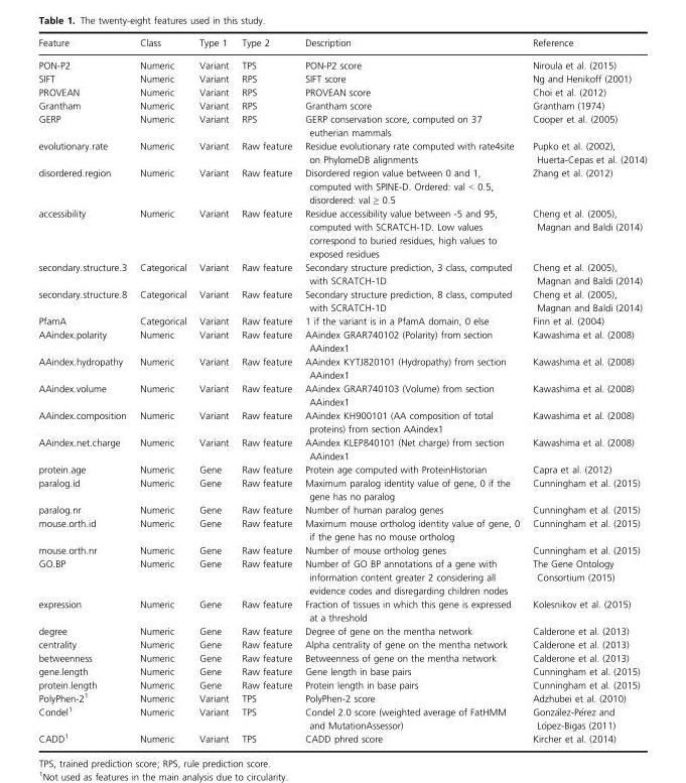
<table><thead><tr><td>Feature</td><td>Class</td><td>Type 1</td><td>Type 2</td><td>Description</td><td>Reference</td></tr></thead><tbody><tr><td>PON-P2</td><td>Numeric</td><td>Variant</td><td>TPS</td><td>PON-P2 score</td><td>Niroula et al. (2015)</td></tr><tr><td>SIFT</td><td>Numeric</td><td>Variant</td><td>RPS</td><td>SIFT score</td><td>Ng and Henikoff (2001)</td></tr><tr><td>PROVEAN</td><td>Numeric</td><td>Variant</td><td>RPS</td><td>PROVEAN score</td><td>Choi et al. (2012)</td></tr><tr><td>Grantham</td><td>Numeric</td><td>Variant</td><td>RPS</td><td>Grantham score</td><td>Grantham (1974)</td></tr><tr><td>GERP</td><td>Numeric</td><td>Variant</td><td>RPS</td><td>GERP conservation score, computed on 37 eutherian mammals</td><td>Cooper et al. (2005)</td></tr><tr><td>evolutionary.rate</td><td>Numeric</td><td>Variant</td><td>Raw feature</td><td>Residue evolutionary rate computed with rate4site on PhylomeDB alignments</td><td>Pupko et al. (2002), Huerta-Cepas et al. (2014)</td></tr><tr><td>disordered.region</td><td>Numeric</td><td>Variant</td><td>Raw feature</td><td>Disordered region value between 0 and 1, computed with SPINE-D. Ordered: val &lt; 0.5, disordered: val ≥ 0.5</td><td>Zhang et al. (2012)</td></tr><tr><td>accessibility</td><td>Numeric</td><td>Variant</td><td>Raw feature</td><td>Residue accessibility value between -5 and 95, computed with SCRATCH-1D. Low values correspond to buried residues, high values to exposed residues</td><td>Cheng et al. (2005), Magnan and Baldi (2014)</td></tr><tr><td>secondary.structure.3</td><td>Categorical</td><td>Variant</td><td>Raw feature</td><td>Secondary structure prediction, 3 class, computed with SCRATCH-1D</td><td>Cheng et al. (2005), Magnan and Baldi (2014)</td></tr><tr><td>secondary.structure.8</td><td>Categorical</td><td>Variant</td><td>Raw feature</td><td>Secondary structure prediction, 8 class, computed with SCRATCH-1D</td><td>Cheng et al. (2005), Magnan and Baldi (2014)</td></tr><tr><td>PfamA</td><td>Categorical</td><td>Variant</td><td>Raw feature</td><td>1 if the variant is in a PfamA domain, 0 else</td><td>Finn et al. (2004)</td></tr><tr><td>AAindex.polarity</td><td>Numeric</td><td>Variant</td><td>Raw feature</td><td>AAindex GRAR740102 (Polarity) from section AAindex1</td><td>Kawashima et al. (2008)</td></tr><tr><td>AAindex.hydropathy</td><td>Numeric</td><td>Variant</td><td>Raw feature</td><td>AAindex KYTJ820101 (Hydropathy) from section AAindex1</td><td>Kawashima et al. (2008)</td></tr><tr><td>AAindex.volume</td><td>Numeric</td><td>Variant</td><td>Raw feature</td><td>AAindex GRAR740103 (Volume) from section AAindex1</td><td>Kawashima et al. (2008)</td></tr><tr><td>AAindex.composition</td><td>Numeric</td><td>Variant</td><td>Raw feature</td><td>AAindex KH900101 (AA composition of total proteins) from section AAindex1</td><td>Kawashima et al. (2008)</td></tr><tr><td>AAindex.net.charge</td><td>Numeric</td><td>Variant</td><td>Raw feature</td><td>AAindex KLEP840101 (Net charge) from section AAindex1</td><td>Kawashima et al. (2008)</td></tr><tr><td>protein.age</td><td>Numeric</td><td>Gene</td><td>Raw feature</td><td>Protein age computed with ProteinHistorian</td><td>Capra et al. (2012)</td></tr><tr><td>paralog.id</td><td>Numeric</td><td>Gene</td><td>Raw feature</td><td>Maximum paralog identity value of gene, 0 if the gene has no paralog</td><td>Cunningham et al. (2015)</td></tr><tr><td>paralog.nr</td><td>Numeric</td><td>Gene</td><td>Raw feature</td><td>Number of human paralog genes</td><td>Cunningham et al. (2015)</td></tr><tr><td>mouse.orth.id</td><td>Numeric</td><td>Gene</td><td>Raw feature</td><td>Maximum mouse ortholog identity value of gene, 0 if the gene has no mouse ortholog</td><td>Cunningham et al. (2015)</td></tr><tr><td>mouse.orth.nr</td><td>Numeric</td><td>Gene</td><td>Raw feature</td><td>Number of mouse ortholog genes</td><td>Cunningham et al. (2015)</td></tr><tr><td>GO.BP</td><td>Numeric</td><td>Gene</td><td>Raw feature</td><td>Number of GO BP annotations of a gene with information content greater 2 considering all evidence codes and disregarding children nodes</td><td>The Gene Ontology Consortium (2015)</td></tr><tr><td>expression</td><td>Numeric</td><td>Gene</td><td>Raw feature</td><td>Fraction of tissues in which this gene is expressed at a threshold</td><td>Kolesnikov et al. (2015)</td></tr><tr><td>degree</td><td>Numeric</td><td>Gene</td><td>Raw feature</td><td>Degree of gene on the mentha network</td><td>Calderone et al. (2013)</td></tr><tr><td>centrality</td><td>Numeric</td><td>Gene</td><td>Raw feature</td><td>Alpha centrality of gene on the mentha network</td><td>Calderone et al. (2013)</td></tr><tr><td>betweenness</td><td>Numeric</td><td>Gene</td><td>Raw feature</td><td>Betweenness of gene on the mentha network</td><td>Calderone et al. (2013)</td></tr><tr><td>gene.length</td><td>Numeric</td><td>Gene</td><td>Raw feature</td><td>Gene length in base pairs</td><td>Cunningham et al. (2015)</td></tr><tr><td>protein.length</td><td>Numeric</td><td>Gene</td><td>Raw feature</td><td>Protein length in base pairs</td><td>Cunningham et al. (2015)</td></tr><tr><td>PolyPhen-21</td><td>Numeric</td><td>Variant</td><td>TPS</td><td>PolyPhen-2 score</td><td>Adzhubei et al. (2010)</td></tr><tr><td>Condel1</td><td>Numeric</td><td>Variant</td><td>TPS</td><td>Condel 2.0 score (weighted average of FatHMM and MutationAssessor)</td><td>Gonz�alez-P�erez and L�opez-Bigas (2011)</td></tr><tr><td>CADD1</td><td>Numeric</td><td>Variant</td><td>TPS</td><td>CADD phred score</td><td>Kircher et al. (2014)</td></tr></tbody></table>